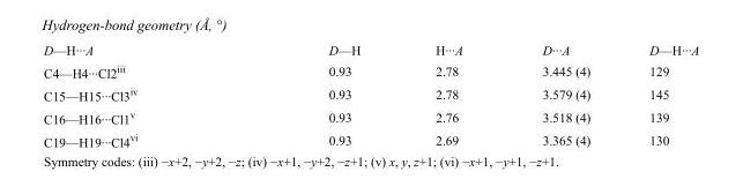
<table><tbody><tr><td>D—H···A</td><td>D—H</td><td>H···A</td><td>D···A</td><td>D—H···A</td></tr><tr><td>C4—H4···Cl2<sup>iii</sup></td><td>0.93</td><td>2.78</td><td>3.445 (4)</td><td>129</td></tr><tr><td>C15—H15···Cl3<sup>iv</sup></td><td>0.93</td><td>2.78</td><td>3.579 (4)</td><td>145</td></tr><tr><td>C16—H16···Cl1<sup>v</sup></td><td>0.93</td><td>2.76</td><td>3.518 (4)</td><td>139</td></tr><tr><td>C19—H19···Cl4<sup>vi</sup></td><td>0.93</td><td>2.69</td><td>3.365 (4)</td><td>130</td></tr></tbody></table>